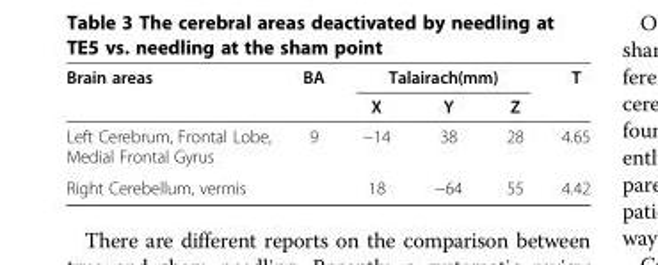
<table><thead><tr><td rowspan="2">Brain areas</td><td rowspan="2">BA</td><td colspan="3">Talairach(mm)</td><td rowspan="2">T</td></tr><tr><td>X</td><td>Y</td><td>Z</td></tr></thead><tbody><tr><td>Left Cerebrum, Frontal Lobe, Medial Frontal Gyrus</td><td>9</td><td>−14</td><td>38</td><td>28</td><td>4.65</td></tr><tr><td>Right Cerebellum, vermis</td><td></td><td>18</td><td>−64</td><td>55</td><td>4.42</td></tr></tbody></table>